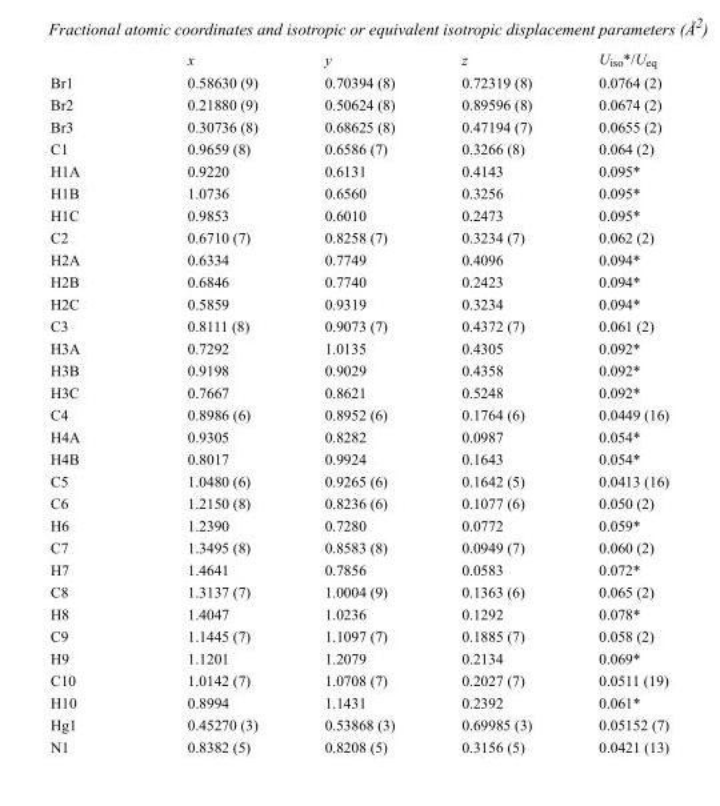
<table><thead><tr><td></td><td>x</td><td>y</td><td>z</td><td>U<sub>iso</sub>*/U<sub>eq</sub></td></tr></thead><tbody><tr><td>Br1</td><td>0.58630 (9)</td><td>0.70394 (8)</td><td>0.72319 (8)</td><td>0.0764 (2)</td></tr><tr><td>Br2</td><td>0.21880 (9)</td><td>0.50624 (8)</td><td>0.89596 (8)</td><td>0.0674 (2)</td></tr><tr><td>Br3</td><td>0.30736 (8)</td><td>0.68625 (8)</td><td>0.47194 (7)</td><td>0.0655 (2)</td></tr><tr><td>C1</td><td>0.9659 (8)</td><td>0.6586 (7)</td><td>0.3266 (8)</td><td>0.064 (2)</td></tr><tr><td>H1A</td><td>0.9220</td><td>0.6131</td><td>0.4143</td><td>0.095*</td></tr><tr><td>H1B</td><td>1.0736</td><td>0.6560</td><td>0.3256</td><td>0.095*</td></tr><tr><td>H1C</td><td>0.9853</td><td>0.6010</td><td>0.2473</td><td>0.095*</td></tr><tr><td>C2</td><td>0.6710 (7)</td><td>0.8258 (7)</td><td>0.3234 (7)</td><td>0.062 (2)</td></tr><tr><td>H2A</td><td>0.6334</td><td>0.7749</td><td>0.4096</td><td>0.094*</td></tr><tr><td>H2B</td><td>0.6846</td><td>0.7740</td><td>0.2423</td><td>0.094*</td></tr><tr><td>H2C</td><td>0.5859</td><td>0.9319</td><td>0.3234</td><td>0.094*</td></tr><tr><td>C3</td><td>0.8111 (8)</td><td>0.9073 (7)</td><td>0.4372 (7)</td><td>0.061 (2)</td></tr><tr><td>H3A</td><td>0.7292</td><td>1.0135</td><td>0.4305</td><td>0.092*</td></tr><tr><td>H3B</td><td>0.9198</td><td>0.9029</td><td>0.4358</td><td>0.092*</td></tr><tr><td>H3C</td><td>0.7667</td><td>0.8621</td><td>0.5248</td><td>0.092*</td></tr><tr><td>C4</td><td>0.8986 (6)</td><td>0.8952 (6)</td><td>0.1764 (6)</td><td>0.0449 (16)</td></tr><tr><td>H4A</td><td>0.9305</td><td>0.8282</td><td>0.0987</td><td>0.054*</td></tr><tr><td>H4B</td><td>0.8017</td><td>0.9924</td><td>0.1643</td><td>0.054*</td></tr><tr><td>C5</td><td>1.0480 (6)</td><td>0.9265 (6)</td><td>0.1642 (5)</td><td>0.0413 (16)</td></tr><tr><td>C6</td><td>1.2150 (8)</td><td>0.8236 (6)</td><td>0.1077 (6)</td><td>0.050 (2)</td></tr><tr><td>H6</td><td>1.2390</td><td>0.7280</td><td>0.0772</td><td>0.059*</td></tr><tr><td>C7</td><td>1.3495 (8)</td><td>0.8583 (8)</td><td>0.0949 (7)</td><td>0.060 (2)</td></tr><tr><td>H7</td><td>1.4641</td><td>0.7856</td><td>0.0583</td><td>0.072*</td></tr><tr><td>C8</td><td>1.3137 (7)</td><td>1.0004 (9)</td><td>0.1363 (6)</td><td>0.065 (2)</td></tr><tr><td>H8</td><td>1.4047</td><td>1.0236</td><td>0.1292</td><td>0.078*</td></tr><tr><td>C9</td><td>1.1445 (7)</td><td>1.1097 (7)</td><td>0.1885 (7)</td><td>0.058 (2)</td></tr><tr><td>H9</td><td>1.1201</td><td>1.2079</td><td>0.2134</td><td>0.069*</td></tr><tr><td>C10</td><td>1.0142 (7)</td><td>1.0708 (7)</td><td>0.2027 (7)</td><td>0.0511 (19)</td></tr><tr><td>H10</td><td>0.8994</td><td>1.1431</td><td>0.2392</td><td>0.061*</td></tr><tr><td>Hg1</td><td>0.45270 (3)</td><td>0.53868 (3)</td><td>0.69985 (3)</td><td>0.05152 (7)</td></tr><tr><td>N1</td><td>0.8382 (5)</td><td>0.8208 (5)</td><td>0.3156 (5)</td><td>0.0421 (13)</td></tr></tbody></table>